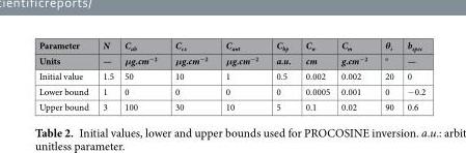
<table><thead><tr><td rowspan="2">Parameter Units</td><td rowspan="2">N —</td><td rowspan="2">C<sub>ab</sub> μg.cm<sup>−2</sup></td><td rowspan="2">C<sub>cx</sub> μg.cm<sup>−2</sup></td><td rowspan="2">C<sub>ant</sub> μg.cm<sup>−2</sup></td><td rowspan="2">C<sub>bp</sub> a.u.</td><td rowspan="2">Cw cm</td><td rowspan="2">Cm g.cm−2</td><td rowspan="2">θ<sub>i</sub> °</td><td rowspan="2">b<sub>spec</sub> —</td></tr><tr></tr></thead><tbody><tr><td>Initial value</td><td>1.5</td><td>50</td><td>10</td><td>1</td><td>0.5</td><td>0.002</td><td>0.002</td><td>20</td><td>0</td></tr><tr><td>Lower bound</td><td>1</td><td>0</td><td>0</td><td>0</td><td>0</td><td>0.0005</td><td>0.001</td><td>0</td><td>−0.2</td></tr><tr><td>Upper bound</td><td>3</td><td>100</td><td>30</td><td>10</td><td>5</td><td>0.1</td><td>0.02</td><td>90</td><td>0.6</td></tr></tbody></table>